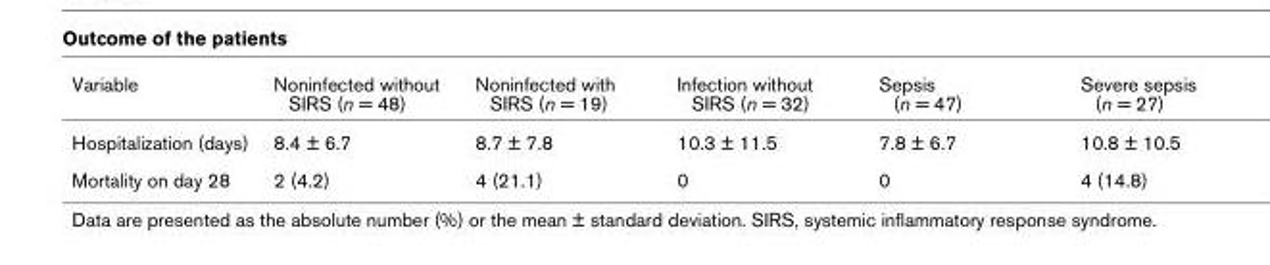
<table><thead><tr><td>Variable</td><td>Noninfected without SIRS (n = 48)</td><td>Noninfected with SIRS (n = 19)</td><td>Infection without SIRS (n = 32)</td><td>Sepsis (n = 47)</td><td>Severe sepsis (n = 27)</td></tr></thead><tbody><tr><td>Hospitalization (days)</td><td>8.4 ± 6.7</td><td>8.7 ± 7.8</td><td>10.3 ± 11.5</td><td>7.8 ± 6.7</td><td>10.8 ± 10.5</td></tr><tr><td>Mortality on day 28</td><td>2 (4.2)</td><td>4 (21.1)</td><td>0</td><td>0</td><td>4 (14.8)</td></tr></tbody></table>